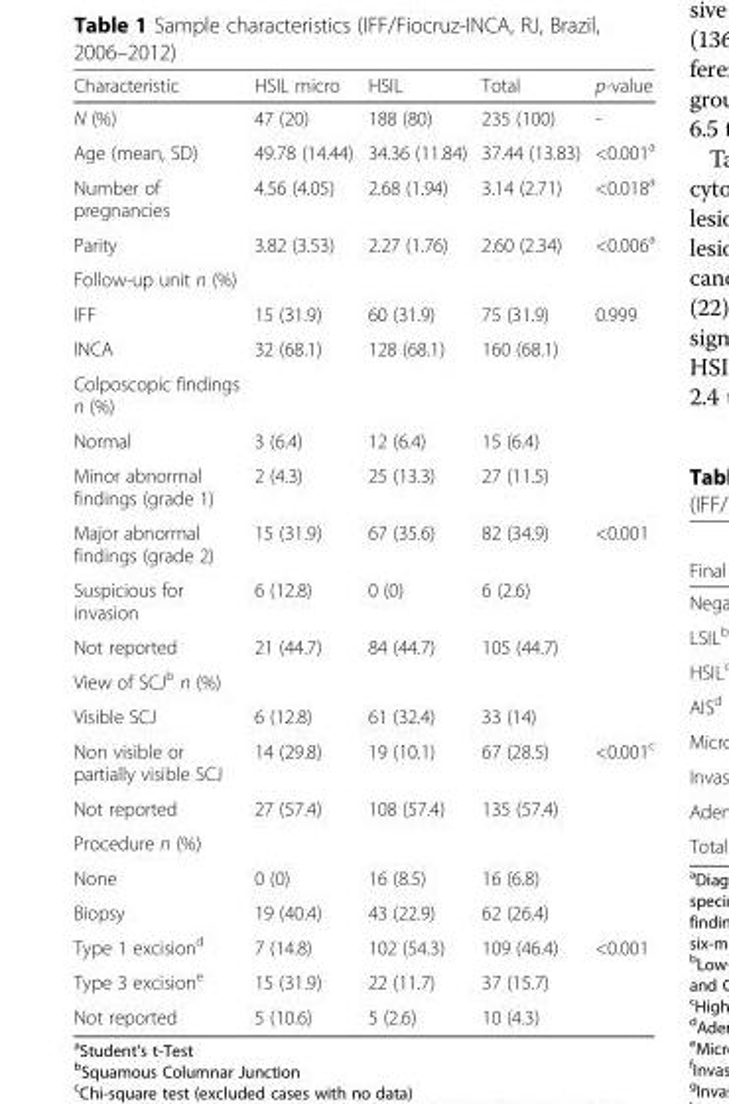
<table><thead><tr><td>Characteristic</td><td>HSIL micro</td><td>HSIL</td><td>Total</td><td>p-value</td></tr></thead><tbody><tr><td>N (%)</td><td>47 (20)</td><td>188 (80)</td><td>235 (100)</td><td>-</td></tr><tr><td>Age (mean, SD)</td><td>49.78 (14.44)</td><td>34.36 (11.84)</td><td>37.44 (13.83)</td><td>&lt;0.001<sup>a</sup></td></tr><tr><td>Number of pregnancies</td><td>4.56 (4.05)</td><td>2.68 (1.94)</td><td>3.14 (2.71)</td><td>&lt;0.018<sup>a</sup></td></tr><tr><td>Parity</td><td>3.82 (3.53)</td><td>2.27 (1.76)</td><td>2.60 (2.34)</td><td>&lt;0.006<sup>a</sup></td></tr><tr><td colspan="5">Follow-up unit n (%)</td></tr><tr><td>IFF</td><td>15 (31.9)</td><td>60 (31.9)</td><td>75 (31.9)</td><td>0.999</td></tr><tr><td>INCA</td><td>32 (68.1)</td><td>128 (68.1)</td><td>160 (68.1)</td><td></td></tr><tr><td colspan="5">Colposcopic findings n (%)</td></tr><tr><td>Normal</td><td>3 (6.4)</td><td>12 (6.4)</td><td>15 (6.4)</td><td></td></tr><tr><td>Minor abnormal findings (grade 1)</td><td>2 (4.3)</td><td>25 (13.3)</td><td>27 (11.5)</td><td></td></tr><tr><td>Major abnormal findings (grade 2)</td><td>15 (31.9)</td><td>67 (35.6)</td><td>82 (34.9)</td><td>&lt;0.001</td></tr><tr><td>Suspicious for invasion</td><td>6 (12.8)</td><td>0 (0)</td><td>6 (2.6)</td><td></td></tr><tr><td>Not reported</td><td>21 (44.7)</td><td>84 (44.7)</td><td>105 (44.7)</td><td></td></tr><tr><td colspan="5">View of SCJ<sup>b</sup> n (%)</td></tr><tr><td>Visible SCJ</td><td>6 (12.8)</td><td>61 (32.4)</td><td>33 (14)</td><td></td></tr><tr><td>Non visible or partially visible SCJ</td><td>14 (29.8)</td><td>19 (10.1)</td><td>67 (28.5)</td><td>&lt;0.001<sup>c</sup></td></tr><tr><td>Not reported</td><td>27 (57.4)</td><td>108 (57.4)</td><td>135 (57.4)</td><td></td></tr><tr><td colspan="5">Procedure n (%)</td></tr><tr><td>None</td><td>0 (0)</td><td>16 (8.5)</td><td>16 (6.8)</td><td></td></tr><tr><td>Biopsy</td><td>19 (40.4)</td><td>43 (22.9)</td><td>62 (26.4)</td><td></td></tr><tr><td>Type 1 excision<sup>d</sup></td><td>7 (14.8)</td><td>102 (54.3)</td><td>109 (46.4)</td><td>&lt;0.001</td></tr><tr><td>Type 3 excision<sup>e</sup></td><td>15 (31.9)</td><td>22 (11.7)</td><td>37 (15.7)</td><td></td></tr><tr><td>Not reported</td><td>5 (10.6)</td><td>5 (2.6)</td><td>10 (4.3)</td><td></td></tr></tbody></table>